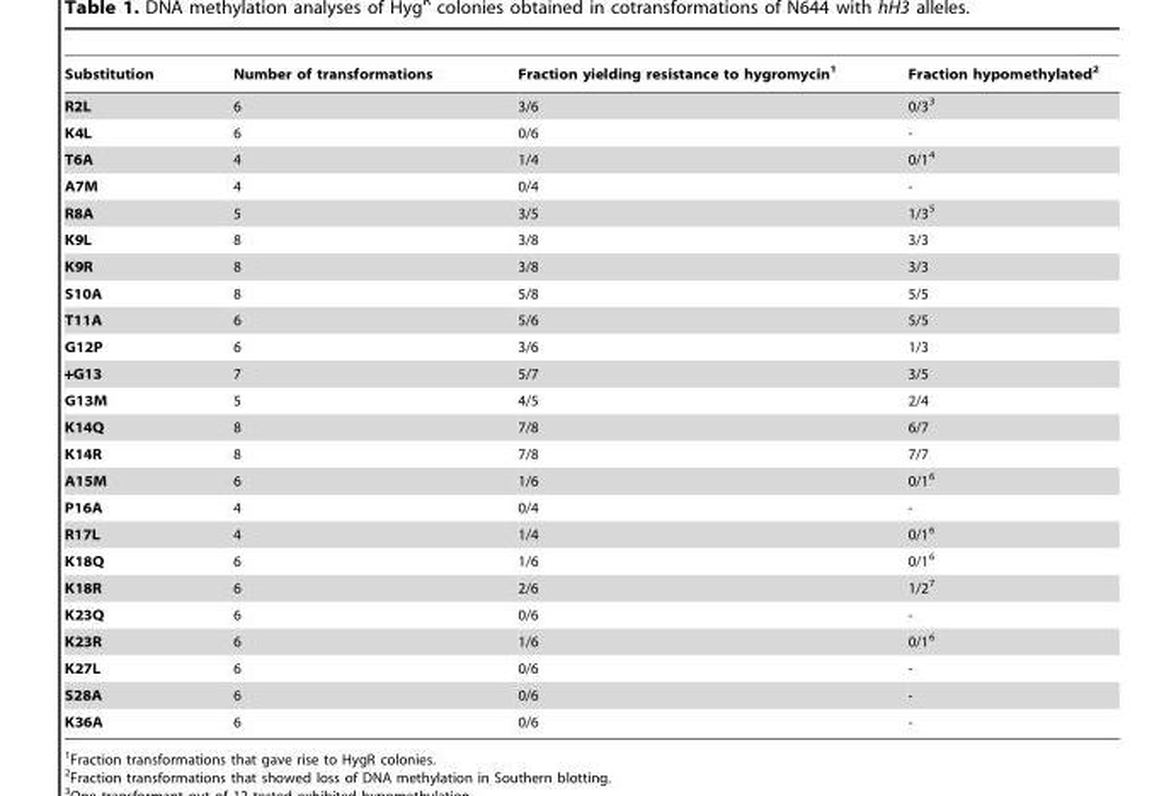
<table><thead><tr><td>Substitution</td><td>Number of transformations</td><td>Fraction yielding resistance to hygromycin<sup>1</sup></td><td>Fraction hypomethylated<sup>2</sup></td></tr></thead><tbody><tr><td>R2L</td><td>6</td><td>3/6</td><td>0/3<sup>3</sup></td></tr><tr><td>K4L</td><td>6</td><td>0/6</td><td>-</td></tr><tr><td>T6A</td><td>4</td><td>1/4</td><td>0/1<sup>4</sup></td></tr><tr><td>A7M</td><td>4</td><td>0/4</td><td>-</td></tr><tr><td>R8A</td><td>5</td><td>3/5</td><td>1/3<sup>5</sup></td></tr><tr><td>K9L</td><td>8</td><td>3/8</td><td>3/3</td></tr><tr><td>K9R</td><td>8</td><td>3/8</td><td>3/3</td></tr><tr><td>S10A</td><td>8</td><td>5/8</td><td>5/5</td></tr><tr><td>T11A</td><td>6</td><td>5/6</td><td>5/5</td></tr><tr><td>G12P</td><td>6</td><td>3/6</td><td>1/3</td></tr><tr><td>+G13</td><td>7</td><td>5/7</td><td>3/5</td></tr><tr><td>G13M</td><td>5</td><td>4/5</td><td>2/4</td></tr><tr><td>K14Q</td><td>8</td><td>7/8</td><td>6/7</td></tr><tr><td>K14R</td><td>8</td><td>7/8</td><td>7/7</td></tr><tr><td>A15M</td><td>6</td><td>1/6</td><td>0/1<sup>6</sup></td></tr><tr><td>P16A</td><td>4</td><td>0/4</td><td>-</td></tr><tr><td>R17L</td><td>4</td><td>1/4</td><td>0/1<sup>6</sup></td></tr><tr><td>K18Q</td><td>6</td><td>1/6</td><td>0/1<sup>6</sup></td></tr><tr><td>K18R</td><td>6</td><td>2/6</td><td>1/2<sup>7</sup></td></tr><tr><td>K23Q</td><td>6</td><td>0/6</td><td>-</td></tr><tr><td>K23R</td><td>6</td><td>1/6</td><td>0/1<sup>6</sup></td></tr><tr><td>K27L</td><td>6</td><td>0/6</td><td>-</td></tr><tr><td>S28A</td><td>6</td><td>0/6</td><td>-</td></tr><tr><td>K36A</td><td>6</td><td>0/6</td><td>-</td></tr></tbody></table>